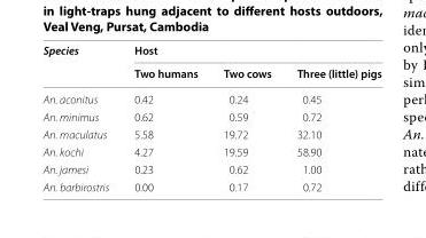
<table><thead><tr><td rowspan="2">Species</td><td colspan="3">Host</td></tr><tr><td>Two humans</td><td>Two cows</td><td>Three (little) pigs</td></tr></thead><tbody><tr><td>An. aconitus</td><td>0.42</td><td>0.24</td><td>0.45</td></tr><tr><td>An. minimus</td><td>0.62</td><td>0.59</td><td>0.72</td></tr><tr><td>An. maculatus</td><td>5.58</td><td>19.72</td><td>32.10</td></tr><tr><td>An. kochi</td><td>4.27</td><td>19.59</td><td>58.90</td></tr><tr><td>An. jamesi</td><td>0.23</td><td>0.62</td><td>1.00</td></tr><tr><td>An. barbirostris</td><td>0.00</td><td>0.17</td><td>0.72</td></tr></tbody></table>